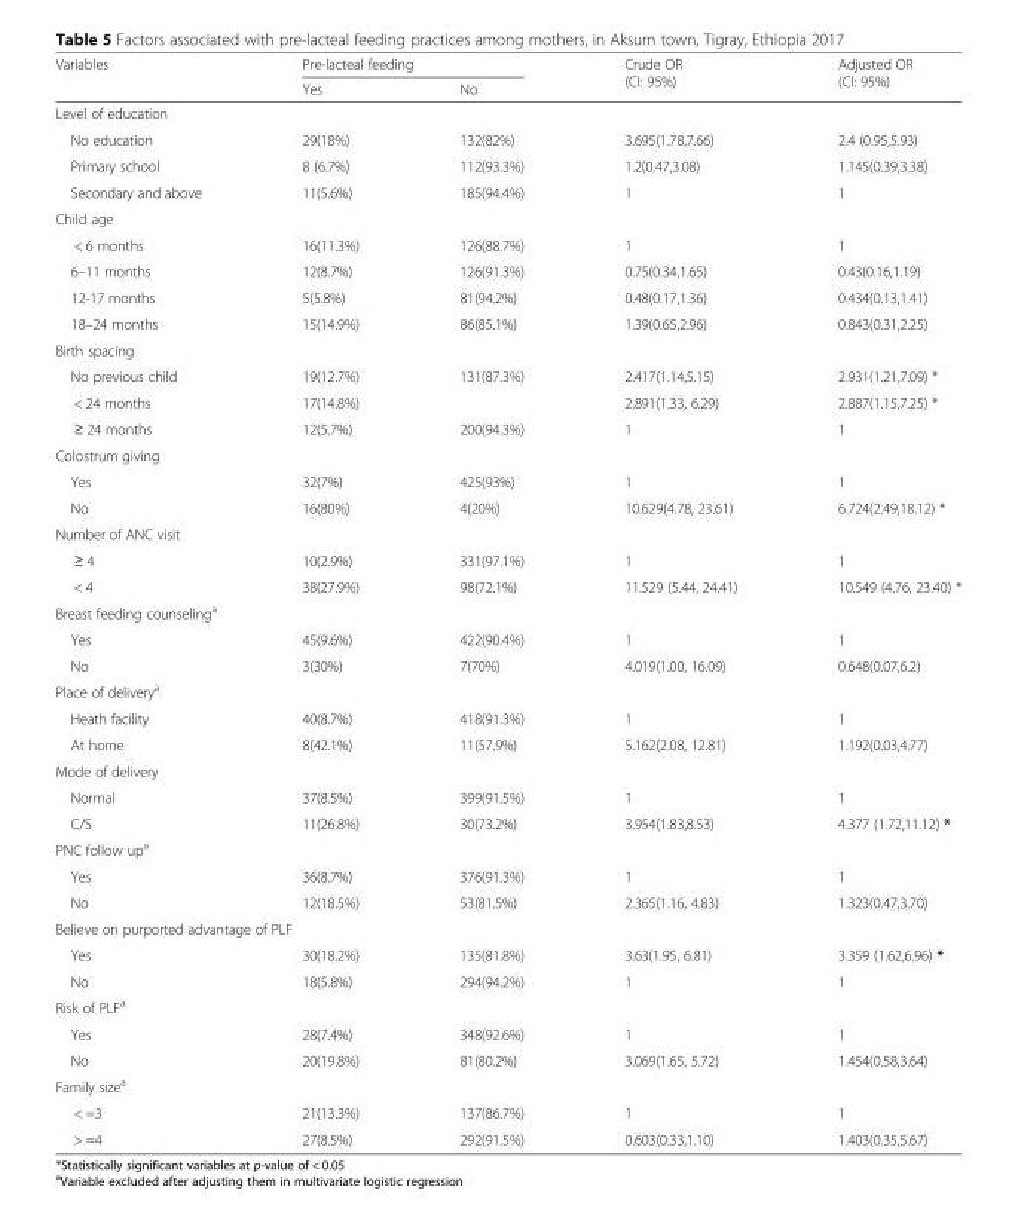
<table><thead><tr><td rowspan="2">Variables</td><td colspan="2">Pre-lacteal feeding</td><td rowspan="2">Crude OR (CI: 95%)</td><td rowspan="2">Adjusted OR (CI: 95%)</td></tr><tr><td>Yes</td><td>No</td></tr></thead><tbody><tr><td colspan="5">Level of education</td></tr><tr><td>No education</td><td>29(18%)</td><td>132(82%)</td><td>3.695(1.78,7.66)</td><td>2.4 (0.95,5.93)</td></tr><tr><td>Primary school</td><td>8 (6.7%)</td><td>112(93.3%)</td><td>1.2(0.47,3.08)</td><td>1.145(0.39,3.38)</td></tr><tr><td>Secondary and above</td><td>11(5.6%)</td><td>185(94.4%)</td><td>1</td><td>1</td></tr><tr><td colspan="5">Child age</td></tr><tr><td>&lt; 6 months</td><td>16(11.3%)</td><td>126(88.7%)</td><td>1</td><td>1</td></tr><tr><td>6–11 months</td><td>12(8.7%)</td><td>126(91.3%)</td><td>0.75(0.34,1.65)</td><td>0.43(0.16,1.19)</td></tr><tr><td>12-17 months</td><td>5(5.8%)</td><td>81(94.2%)</td><td>0.48(0.17,1.36)</td><td>0.434(0.13,1.41)</td></tr><tr><td>18–24 months</td><td>15(14.9%)</td><td>86(85.1%)</td><td>1.39(0.65,2.96)</td><td>0.843(0.31,2.25)</td></tr><tr><td colspan="5">Birth spacing</td></tr><tr><td>No previous child</td><td>19(12.7%)</td><td>131(87.3%)</td><td>2.417(1.14,5.15)</td><td>2.931(1.21,7.09) *</td></tr><tr><td>&lt; 24 months</td><td>17(14.8%)</td><td></td><td>2.891(1.33, 6.29)</td><td>2.887(1.15,7.25) *</td></tr><tr><td>≥ 24 months</td><td>12(5.7%)</td><td>200(94.3%)</td><td>1</td><td>1</td></tr><tr><td colspan="5">Colostrum giving</td></tr><tr><td>Yes</td><td>32(7%)</td><td>425(93%)</td><td>1</td><td>1</td></tr><tr><td>No</td><td>16(80%)</td><td>4(20%)</td><td>10.629(4.78, 23.61)</td><td>6.724(2.49,18.12) *</td></tr><tr><td colspan="5">Number of ANC visit</td></tr><tr><td>≥ 4</td><td>10(2.9%)</td><td>331(97.1%)</td><td>1</td><td>1</td></tr><tr><td>&lt; 4</td><td>38(27.9%)</td><td>98(72.1%)</td><td>11.529 (5.44, 24.41)</td><td>10.549 (4.76, 23.40) *</td></tr><tr><td colspan="5">Breast feeding counseling<sup>a</sup></td></tr><tr><td>Yes</td><td>45(9.6%)</td><td>422(90.4%)</td><td>1</td><td>1</td></tr><tr><td>No</td><td>3(30%)</td><td>7(70%)</td><td>4.019(1.00, 16.09)</td><td>0.648(0.07,6.2)</td></tr><tr><td colspan="5">Place of delivery<sup>a</sup></td></tr><tr><td>Heath facility</td><td>40(8.7%)</td><td>418(91.3%)</td><td>1</td><td>1</td></tr><tr><td>At home</td><td>8(42.1%)</td><td>11(57.9%)</td><td>5.162(2.08, 12.81)</td><td>1.192(0.03,4.77)</td></tr><tr><td colspan="5">Mode of delivery</td></tr><tr><td>Normal</td><td>37(8.5%)</td><td>399(91.5%)</td><td>1</td><td>1</td></tr><tr><td>C/S</td><td>11(26.8%)</td><td>30(73.2%)</td><td>3.954(1.83,8.53)</td><td>4.377 (1.72,11.12) *</td></tr><tr><td colspan="5">PNC follow up<sup>a</sup></td></tr><tr><td>Yes</td><td>36(8.7%)</td><td>376(91.3%)</td><td>1</td><td>1</td></tr><tr><td>No</td><td>12(18.5%)</td><td>53(81.5%)</td><td>2.365(1.16, 4.83)</td><td>1.323(0.47,3.70)</td></tr><tr><td colspan="5">Believe on purported advantage of PLF</td></tr><tr><td>Yes</td><td>30(18.2%)</td><td>135(81.8%)</td><td>3.63(1.95, 6.81)</td><td>3.359 (1.62,6.96) *</td></tr><tr><td>No</td><td>18(5.8%)</td><td>294(94.2%)</td><td>1</td><td>1</td></tr><tr><td colspan="5">Risk of PLF<sup>a</sup></td></tr><tr><td>Yes</td><td>28(7.4%)</td><td>348(92.6%)</td><td>1</td><td>1</td></tr><tr><td>No</td><td>20(19.8%)</td><td>81(80.2%)</td><td>3.069(1.65, 5.72)</td><td>1.454(0.58,3.64)</td></tr><tr><td colspan="5">Family size<sup>a</sup></td></tr><tr><td>&lt; =3</td><td>21(13.3%)</td><td>137(86.7%)</td><td>1</td><td>1</td></tr><tr><td>&gt; =4</td><td>27(8.5%)</td><td>292(91.5%)</td><td>0.603(0.33,1.10)</td><td>1.403(0.35,5.67)</td></tr></tbody></table>